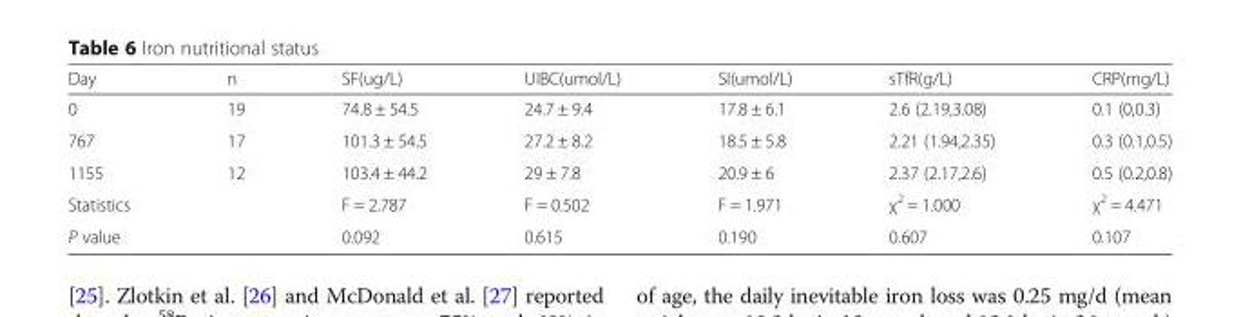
<table><thead><tr><td>Day</td><td>n</td><td>SF(ug/L)</td><td>UIBC(umol/L)</td><td>SI(umol/L)</td><td>sTfR(g/L)</td><td>CRP(mg/L)</td></tr></thead><tbody><tr><td>0</td><td>19</td><td>74.8 ± 54.5</td><td>24.7 ± 9.4</td><td>17.8 ± 6.1</td><td>2.6 (2.19,3.08)</td><td>0.1 (0,0.3)</td></tr><tr><td>767</td><td>17</td><td>101.3 ± 54.5</td><td>27.2 ± 8.2</td><td>18.5 ± 5.8</td><td>2.21 (1.94,2.35)</td><td>0.3 (0.1,0.5)</td></tr><tr><td>1155</td><td>12</td><td>103.4 ± 44.2</td><td>29 ± 7.8</td><td>20.9 ± 6</td><td>2.37 (2.17,2.6)</td><td>0.5 (0.2,0.8)</td></tr><tr><td>Statistics</td><td></td><td>F = 2.787</td><td>F = 0.502</td><td>F = 1.971</td><td>χ<sup>2</sup> = 1.000</td><td>χ<sup>2</sup> = 4.471</td></tr><tr><td>P value</td><td></td><td>0.092</td><td>0.615</td><td>0.190</td><td>0.607</td><td>0.107</td></tr></tbody></table>